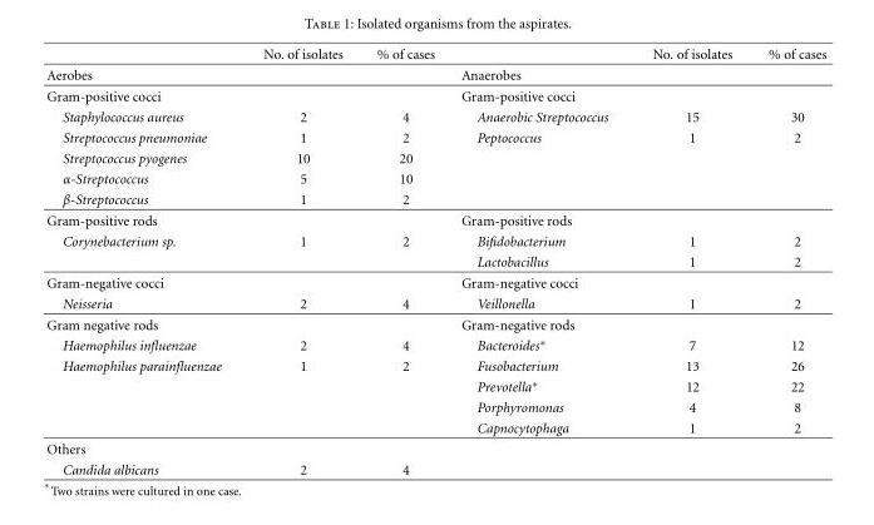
<table><thead><tr><td></td><td>No. of isolates</td><td>% of cases</td><td></td><td>No. of isolates</td><td>% of cases</td></tr></thead><tbody><tr><td>Aerobes</td><td></td><td></td><td>Anaerobes</td><td></td><td></td></tr><tr><td>Gram-positive cocci</td><td></td><td></td><td>Gram-positive cocci</td><td></td><td></td></tr><tr><td>Staphylococcus aureus</td><td>2</td><td>4</td><td>Anaerobic Streptococcus</td><td>15</td><td>30</td></tr><tr><td>Streptococcus pneumoniae</td><td>1</td><td>2</td><td>Peptococcus</td><td>1</td><td>2</td></tr><tr><td>Streptococcus pyogenes</td><td>10</td><td>20</td><td></td><td></td><td></td></tr><tr><td>α-Streptococcus</td><td>5</td><td>10</td><td></td><td></td><td></td></tr><tr><td>β-Streptococcus</td><td>1</td><td>2</td><td></td><td></td><td></td></tr><tr><td>Gram-positive rods</td><td></td><td></td><td>Gram-positive rods</td><td></td><td></td></tr><tr><td rowspan="2">Corynebacterium sp.</td><td>1</td><td>2</td><td>Bifidobacterium</td><td>1</td><td>2</td></tr><tr><td></td><td></td><td>Lactobacillus</td><td>1</td><td>2</td></tr><tr><td>Gram-negative cocci</td><td></td><td></td><td>Gram-negative cocci</td><td></td><td></td></tr><tr><td>Neisseria</td><td>2</td><td>4</td><td>Veillonella</td><td>1</td><td>2</td></tr><tr><td>Gram negative rods</td><td></td><td></td><td>Gram-negative rods</td><td></td><td></td></tr><tr><td>Haemophilus influenzae</td><td>2</td><td>4</td><td>Bacteroides∗</td><td>7</td><td>12</td></tr><tr><td rowspan="4">Haemophilus parainfluenzae</td><td>1</td><td>2</td><td>Fusobacterium</td><td>13</td><td>26</td></tr><tr><td></td><td></td><td>Prevotella∗</td><td>12</td><td>22</td></tr><tr><td></td><td></td><td>Porphyromonas</td><td>4</td><td>8</td></tr><tr><td></td><td></td><td>Capnocytophaga</td><td>1</td><td>2</td></tr><tr><td colspan="6">Others</td></tr><tr><td>Candida albicans</td><td>2</td><td>4</td><td></td><td></td><td></td></tr></tbody></table>